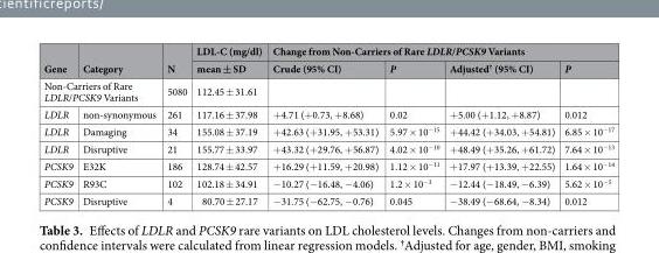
<table><thead><tr><td rowspan="2">Gene</td><td rowspan="2">Category</td><td rowspan="2">N</td><td rowspan="2">LDL-C (mg/dl) mean ± SD</td><td colspan="4">Change from Non-Carriers of Rare LDLR/PCSK9 Variants</td></tr><tr><td>Crude (95% CI)</td><td>P</td><td>Adjusted<sup>†</sup> (95% CI)</td><td>P</td></tr></thead><tbody><tr><td colspan="2">Non-Carriers of Rare LDLR/PCSK9 Variants</td><td>5080</td><td>112.45 ± 31.61</td><td></td><td></td><td></td><td></td></tr><tr><td>LDLR</td><td>non-synonymous</td><td>261</td><td>117.16 ± 37.98</td><td>+4.71 (+0.73, +8.68)</td><td>0.02</td><td>+5.00 (+1.12, +8.87)</td><td>0.012</td></tr><tr><td>LDLR</td><td>Damaging</td><td>34</td><td>155.08 ± 37.19</td><td>+42.63 (+31.95, +53.31)</td><td>5.97 × 10<sup>−15</sup></td><td>+44.42 (+34.03, +54.81)</td><td>6.85 × 10<sup>−17</sup></td></tr><tr><td>LDLR</td><td>Disruptive</td><td>21</td><td>155.77 ± 33.97</td><td>+43.32 (+29.76, +56.87)</td><td>4.02 × 10<sup>−10</sup></td><td>+48.49 (+35.26, +61.72)</td><td>7.64 × 10<sup>−13</sup></td></tr><tr><td>PCSK9</td><td>E32K</td><td>186</td><td>128.74 ± 42.57</td><td>+16.29 (+11.59, +20.98)</td><td>1.12 × 10<sup>−11</sup></td><td>+17.97 (+13.39, +22.55)</td><td>1.64 × 10<sup>−14</sup></td></tr><tr><td>PCSK9</td><td>R93C</td><td>102</td><td>102.18 ± 34.91</td><td>−10.27 (−16.48, −4.06)</td><td>1.2 × 10<sup>−3</sup></td><td>−12.44 (−18.49, −6.39)</td><td>5.62 × 10<sup>−5</sup></td></tr><tr><td>PCSK9</td><td>Disruptive</td><td>4</td><td>80.70 ± 27.17</td><td>−31.75 (−62.75, −0.76)</td><td>0.045</td><td>−38.49 (−68.64, −8.34)</td><td>0.012</td></tr></tbody></table>